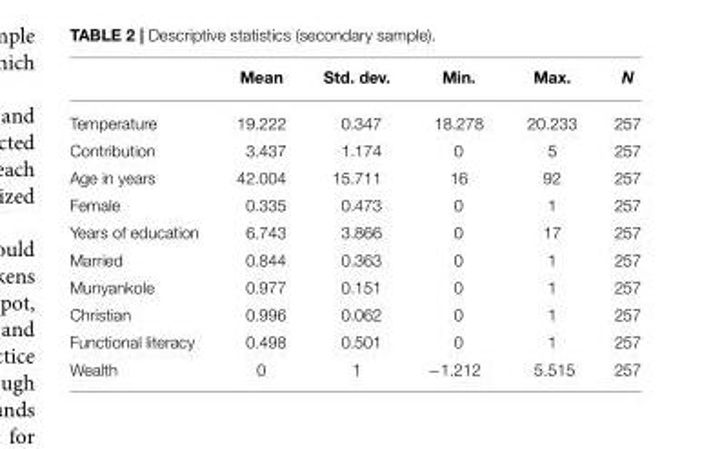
<table><thead><tr><td></td><td>Mean</td><td>Std. dev.</td><td>Min.</td><td>Max.</td><td>N</td></tr></thead><tbody><tr><td>Temperature</td><td>19.222</td><td>0.347</td><td>18.278</td><td>20.233</td><td>257</td></tr><tr><td>Contribution</td><td>3.437</td><td>1.174</td><td>0</td><td>5</td><td>257</td></tr><tr><td>Age in years</td><td>42.004</td><td>15.711</td><td>16</td><td>92</td><td>257</td></tr><tr><td>Female</td><td>0.335</td><td>0.473</td><td>0</td><td>1</td><td>257</td></tr><tr><td>Years of education</td><td>6.743</td><td>3.866</td><td>0</td><td>17</td><td>257</td></tr><tr><td>Married</td><td>0.844</td><td>0.363</td><td>0</td><td>1</td><td>257</td></tr><tr><td>Munyankole</td><td>0.977</td><td>0.151</td><td>0</td><td>1</td><td>257</td></tr><tr><td>Christian</td><td>0.996</td><td>0.062</td><td>0</td><td>1</td><td>257</td></tr><tr><td>Functional literacy</td><td>0.498</td><td>0.501</td><td>0</td><td>1</td><td>257</td></tr><tr><td>Wealth</td><td>0</td><td>1</td><td>−1.212</td><td>5.515</td><td>257</td></tr></tbody></table>